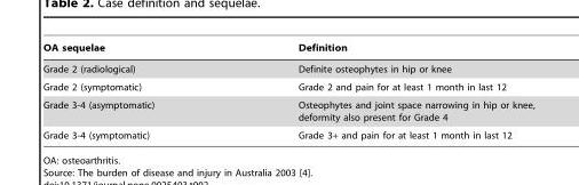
<table><thead><tr><td>OA sequelae</td><td>Definition</td></tr></thead><tbody><tr><td>Grade 2 (radiological)</td><td>Definite osteophytes in hip or knee</td></tr><tr><td>Grade 2 (symptomatic)</td><td>Grade 2 and pain for at least 1 month in last 12</td></tr><tr><td>Grade 3-4 (asymptomatic)</td><td>Osteophytes and joint space narrowing in hip or knee, deformity also present for Grade 4</td></tr><tr><td>Grade 3-4 (symptomatic)</td><td>Grade 3+ and pain for at least 1 month in last 12</td></tr></tbody></table>